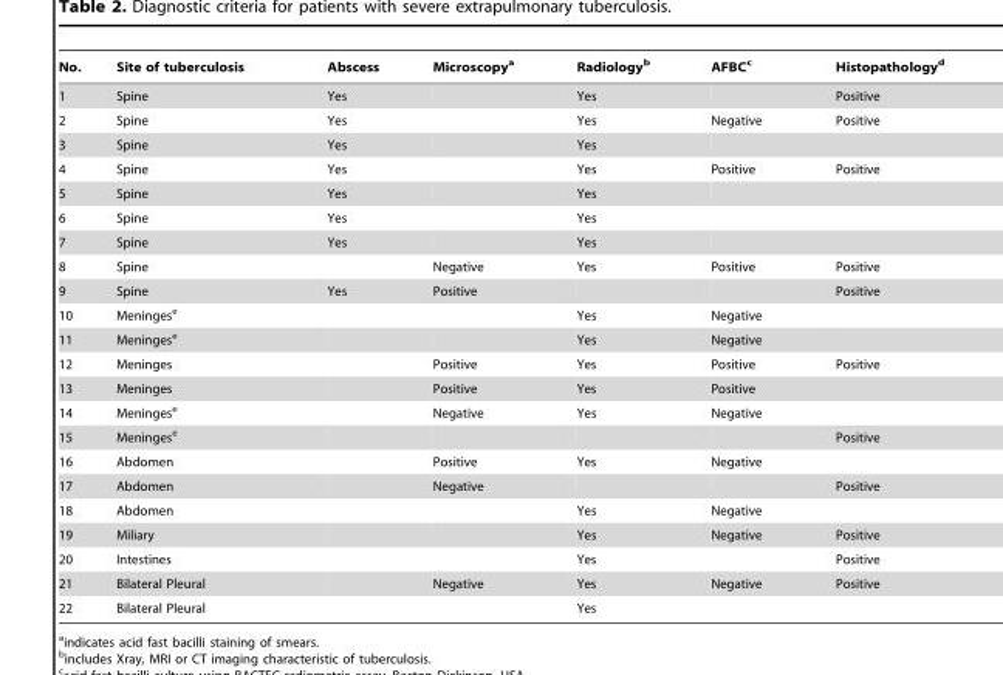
<table><thead><tr><td>No.</td><td>Site of tuberculosis</td><td>Abscess</td><td>Microscopy<sup>a</sup></td><td>Radiology<sup>b</sup></td><td>AFBC<sup>c</sup></td><td>Histopathology<sup>d</sup></td></tr></thead><tbody><tr><td>1</td><td>Spine</td><td>Yes</td><td></td><td>Yes</td><td></td><td>Positive</td></tr><tr><td>2</td><td>Spine</td><td>Yes</td><td></td><td>Yes</td><td>Negative</td><td>Positive</td></tr><tr><td>3</td><td>Spine</td><td>Yes</td><td></td><td>Yes</td><td></td><td></td></tr><tr><td>4</td><td>Spine</td><td>Yes</td><td></td><td>Yes</td><td>Positive</td><td>Positive</td></tr><tr><td>5</td><td>Spine</td><td>Yes</td><td></td><td>Yes</td><td></td><td></td></tr><tr><td>6</td><td>Spine</td><td>Yes</td><td></td><td>Yes</td><td></td><td></td></tr><tr><td>7</td><td>Spine</td><td>Yes</td><td></td><td>Yes</td><td></td><td></td></tr><tr><td>8</td><td>Spine</td><td></td><td>Negative</td><td>Yes</td><td>Positive</td><td>Positive</td></tr><tr><td>9</td><td>Spine</td><td>Yes</td><td>Positive</td><td></td><td></td><td>Positive</td></tr><tr><td>10</td><td>Meninges<sup>e</sup></td><td></td><td></td><td>Yes</td><td>Negative</td><td></td></tr><tr><td>11</td><td>Meninges<sup>e</sup></td><td></td><td></td><td>Yes</td><td>Negative</td><td></td></tr><tr><td>12</td><td>Meninges</td><td></td><td>Positive</td><td>Yes</td><td>Positive</td><td>Positive</td></tr><tr><td>13</td><td>Meninges</td><td></td><td>Positive</td><td>Yes</td><td>Positive</td><td></td></tr><tr><td>14</td><td>Meninges<sup>e</sup></td><td></td><td>Negative</td><td>Yes</td><td>Negative</td><td></td></tr><tr><td>15</td><td>Meninges<sup>e</sup></td><td></td><td></td><td></td><td></td><td>Positive</td></tr><tr><td>16</td><td>Abdomen</td><td></td><td>Positive</td><td>Yes</td><td>Negative</td><td></td></tr><tr><td>17</td><td>Abdomen</td><td></td><td>Negative</td><td></td><td></td><td>Positive</td></tr><tr><td>18</td><td>Abdomen</td><td></td><td></td><td>Yes</td><td>Negative</td><td></td></tr><tr><td>19</td><td>Miliary</td><td></td><td></td><td>Yes</td><td>Negative</td><td>Positive</td></tr><tr><td>20</td><td>Intestines</td><td></td><td></td><td>Yes</td><td></td><td>Positive</td></tr><tr><td>21</td><td>Bilateral Pleural</td><td></td><td>Negative</td><td>Yes</td><td>Negative</td><td>Positive</td></tr><tr><td>22</td><td>Bilateral Pleural</td><td></td><td></td><td>Yes</td><td></td><td></td></tr></tbody></table>